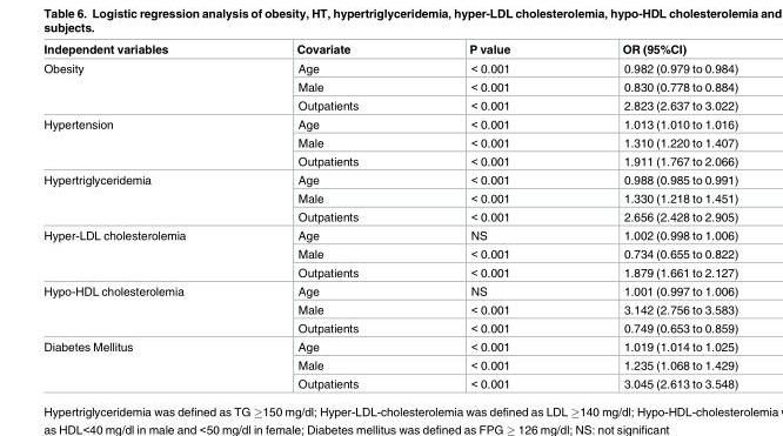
<table><thead><tr><td>Independent variables</td><td>Covariate</td><td>P value</td><td>OR (95%CI)</td></tr></thead><tbody><tr><td rowspan="3">Obesity</td><td>Age</td><td>&lt; 0.001</td><td>0.982 (0.979 to 0.984)</td></tr><tr><td>Male</td><td>&lt; 0.001</td><td>0.830 (0.778 to 0.884)</td></tr><tr><td>Outpatients</td><td>&lt; 0.001</td><td>2.823 (2.637 to 3.022)</td></tr><tr><td rowspan="3">Hypertension</td><td>Age</td><td>&lt; 0.001</td><td>1.013 (1.010 to 1.016)</td></tr><tr><td>Male</td><td>&lt; 0.001</td><td>1.310 (1.220 to 1.407)</td></tr><tr><td>Outpatients</td><td>&lt; 0.001</td><td>1.911 (1.767 to 2.066)</td></tr><tr><td rowspan="3">Hypertriglyceridemia</td><td>Age</td><td>&lt; 0.001</td><td>0.988 (0.985 to 0.991)</td></tr><tr><td>Male</td><td>&lt; 0.001</td><td>1.330 (1.218 to 1.451)</td></tr><tr><td>Outpatients</td><td>&lt; 0.001</td><td>2.656 (2.428 to 2.905)</td></tr><tr><td rowspan="3">Hyper-LDL cholesterolemia</td><td>Age</td><td>NS</td><td>1.002 (0.998 to 1.006)</td></tr><tr><td>Male</td><td>&lt; 0.001</td><td>0.734 (0.655 to 0.822)</td></tr><tr><td>Outpatients</td><td>&lt; 0.001</td><td>1.879 (1.661 to 2.127)</td></tr><tr><td rowspan="3">Hypo-HDL cholesterolemia</td><td>Age</td><td>NS</td><td>1.001 (0.997 to 1.006)</td></tr><tr><td>Male</td><td>&lt; 0.001</td><td>3.142 (2.756 to 3.583)</td></tr><tr><td>Outpatients</td><td>&lt; 0.001</td><td>0.749 (0.653 to 0.859)</td></tr><tr><td rowspan="3">Diabetes Mellitus</td><td>Age</td><td>&lt; 0.001</td><td>1.019 (1.014 to 1.025)</td></tr><tr><td>Male</td><td>&lt; 0.001</td><td>1.235 (1.068 to 1.429)</td></tr><tr><td>Outpatients</td><td>&lt; 0.001</td><td>3.045 (2.613 to 3.548)</td></tr></tbody></table>